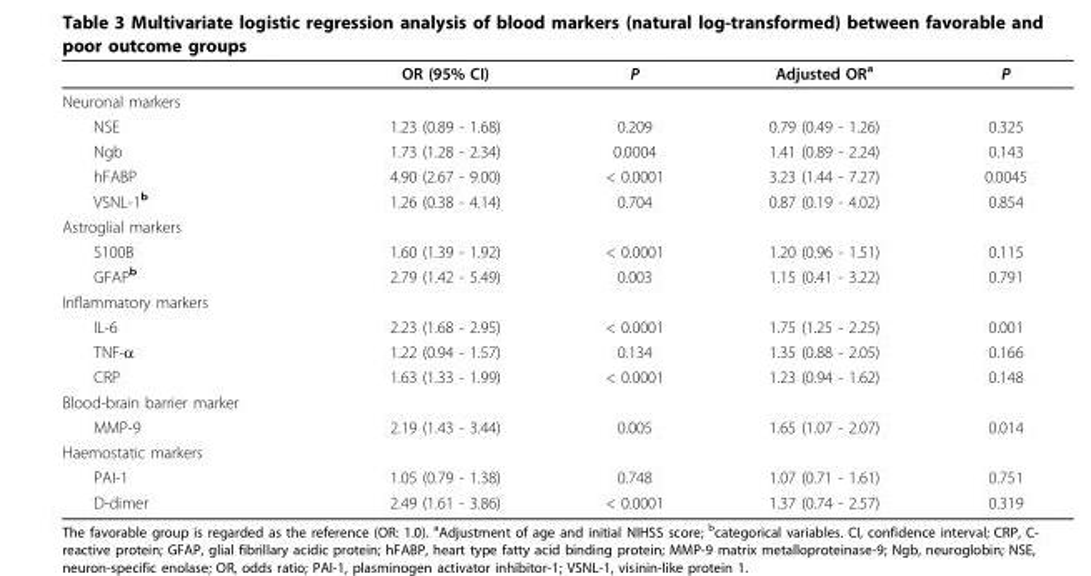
<table><thead><tr><td></td><td>OR (95% CI)</td><td>P</td><td>Adjusted OR<sup>a</sup></td><td>P</td></tr></thead><tbody><tr><td colspan="5">Neuronal markers</td></tr><tr><td>NSE</td><td>1.23 (0.89 - 1.68)</td><td>0.209</td><td>0.79 (0.49 - 1.26)</td><td>0.325</td></tr><tr><td>Ngb</td><td>1.73 (1.28 - 2.34)</td><td>0.0004</td><td>1.41 (0.89 - 2.24)</td><td>0.143</td></tr><tr><td>hFABP</td><td>4.90 (2.67 - 9.00)</td><td>&lt; 0.0001</td><td>3.23 (1.44 - 7.27)</td><td>0.0045</td></tr><tr><td>VSNL-1<sup>b</sup></td><td>1.26 (0.38 - 4.14)</td><td>0.704</td><td>0.87 (0.19 - 4.02)</td><td>0.854</td></tr><tr><td colspan="5">Astroglial markers</td></tr><tr><td>S100B</td><td>1.60 (1.39 - 1.92)</td><td>&lt; 0.0001</td><td>1.20 (0.96 - 1.51)</td><td>0.115</td></tr><tr><td>GFAP<sup>b</sup></td><td>2.79 (1.42 - 5.49)</td><td>0.003</td><td>1.15 (0.41 - 3.22)</td><td>0.791</td></tr><tr><td colspan="5">Inflammatory markers</td></tr><tr><td>IL-6</td><td>2.23 (1.68 - 2.95)</td><td>&lt; 0.0001</td><td>1.75 (1.25 - 2.25)</td><td>0.001</td></tr><tr><td>TNF-α</td><td>1.22 (0.94 - 1.57)</td><td>0.134</td><td>1.35 (0.88 - 2.05)</td><td>0.166</td></tr><tr><td>CRP</td><td>1.63 (1.33 - 1.99)</td><td>&lt; 0.0001</td><td>1.23 (0.94 - 1.62)</td><td>0.148</td></tr><tr><td colspan="5">Blood-brain barrier marker</td></tr><tr><td>MMP-9</td><td>2.19 (1.43 - 3.44)</td><td>0.005</td><td>1.65 (1.07 - 2.07)</td><td>0.014</td></tr><tr><td colspan="5">Haemostatic markers</td></tr><tr><td>PAI-1</td><td>1.05 (0.79 - 1.38)</td><td>0.748</td><td>1.07 (0.71 - 1.61)</td><td>0.751</td></tr><tr><td>D-dimer</td><td>2.49 (1.61 - 3.86)</td><td>&lt; 0.0001</td><td>1.37 (0.74 - 2.57)</td><td>0.319</td></tr></tbody></table>